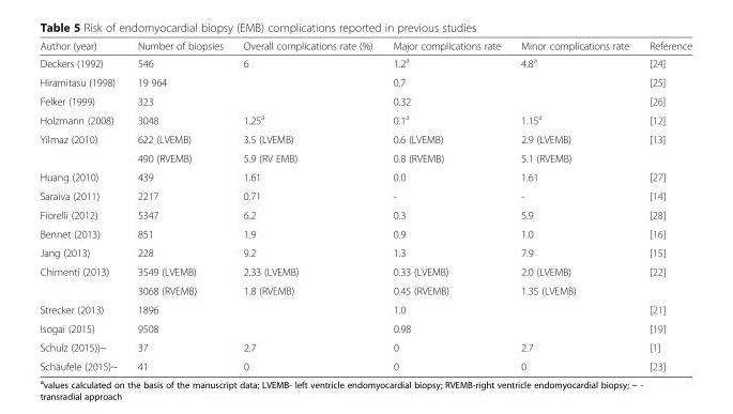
<table><thead><tr><td>Author (year)</td><td>Number of biopsies</td><td>Overall complications rate (%)</td><td>Major complications rate</td><td>Minor complications rate</td><td>Reference</td></tr></thead><tbody><tr><td>Deckers (1992)</td><td>546</td><td>6</td><td>1.2<sup>a</sup></td><td>4.8<sup>a</sup></td><td>[24]</td></tr><tr><td>Hiramitasu (1998)</td><td>19 964</td><td></td><td>0.7</td><td></td><td>[25]</td></tr><tr><td>Felker (1999)</td><td>323</td><td></td><td>0.32</td><td></td><td>[26]</td></tr><tr><td>Holzmann (2008)</td><td>3048</td><td>1.25<sup>a</sup></td><td>0.1<sup>a</sup></td><td>1.15<sup>a</sup></td><td>[12]</td></tr><tr><td rowspan="2">Yilmaz (2010)</td><td>622 (LVEMB)</td><td>3.5 (LVEMB)</td><td>0.6 (LVEMB)</td><td>2.9 (LVEMB)</td><td rowspan="2">[13]</td></tr><tr><td>490 (RVEMB)</td><td>5.9 (RV EMB)</td><td>0.8 (RVEMB)</td><td>5.1 (RVEMB)</td></tr><tr><td>Huang (2010)</td><td>439</td><td>1.61</td><td>0.0</td><td>1.61</td><td>[27]</td></tr><tr><td>Saraiva (2011)</td><td>2217</td><td>0.71</td><td>-</td><td>-</td><td>[14]</td></tr><tr><td>Fiorelli (2012)</td><td>5347</td><td>6.2</td><td>0.3</td><td>5.9</td><td>[28]</td></tr><tr><td>Bennet (2013)</td><td>851</td><td>1.9</td><td>0.9</td><td>1.0</td><td>[16]</td></tr><tr><td>Jang (2013)</td><td>228</td><td>9.2</td><td>1.3</td><td>7.9</td><td>[15]</td></tr><tr><td rowspan="2">Chimenti (2013)</td><td>3549 (LVEMB)</td><td>2.33 (LVEMB)</td><td>0.33 (LVEMB)</td><td>2.0 (LVEMB)</td><td rowspan="2">[22]</td></tr><tr><td>3068 (RVEMB)</td><td>1.8 (RVEMB)</td><td>0.45 (RVEMB)</td><td>1.35 (LVEMB)</td></tr><tr><td>Strecker (2013)</td><td>1896</td><td></td><td>1.0</td><td></td><td>[21]</td></tr><tr><td>Isogai (2015)</td><td>9508</td><td></td><td>0.98</td><td></td><td>[19]</td></tr><tr><td>Schulz (2015))~</td><td>37</td><td>2.7</td><td>0</td><td>2.7</td><td>[1]</td></tr><tr><td>Schäufele (2015)~</td><td>41</td><td>0</td><td>0</td><td>0</td><td>[23]</td></tr></tbody></table>